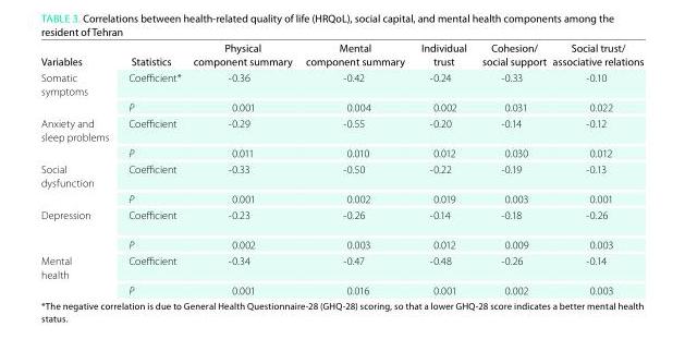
<table><thead><tr><td>Variables</td><td>statistics</td><td>Physical component summary</td><td>Mental component summary</td><td>individual trust</td><td>cohesion/ social support</td><td>social trust/ associative relations</td></tr></thead><tbody><tr><td rowspan="2">Somatic symptoms</td><td>Coefficient*</td><td>-0.36</td><td>-0.42</td><td>-0.24</td><td>-0.33</td><td>-0.10</td></tr><tr><td>P</td><td>0.001</td><td>0.004</td><td>0.002</td><td>0.031</td><td>0.022</td></tr><tr><td rowspan="2">Anxiety and sleep problems</td><td>Coefficient</td><td>-0.29</td><td>-0.55</td><td>-0.20</td><td>-0.14</td><td>-0.12</td></tr><tr><td>P</td><td>0.011</td><td>0.010</td><td>0.012</td><td>0.030</td><td>0.012</td></tr><tr><td rowspan="2">Social dysfunction</td><td>Coefficient</td><td>-0.33</td><td>-0.50</td><td>-0.22</td><td>-0.19</td><td>-0.13</td></tr><tr><td>P</td><td>0.001</td><td>0.002</td><td>0.019</td><td>0.003</td><td>0.001</td></tr><tr><td rowspan="2">Depression</td><td>Coefficient</td><td>-0.23</td><td>-0.26</td><td>-0.14</td><td>-0.18</td><td>-0.26</td></tr><tr><td>P</td><td>0.002</td><td>0.003</td><td>0.012</td><td>0.009</td><td>0.003</td></tr><tr><td rowspan="2">Mental health</td><td>Coefficient</td><td>-0.34</td><td>-0.47</td><td>-0.48</td><td>-0.26</td><td>-0.14</td></tr><tr><td>P</td><td>0.001</td><td>0.016</td><td>0.001</td><td>0.002</td><td>0.003</td></tr></tbody></table>